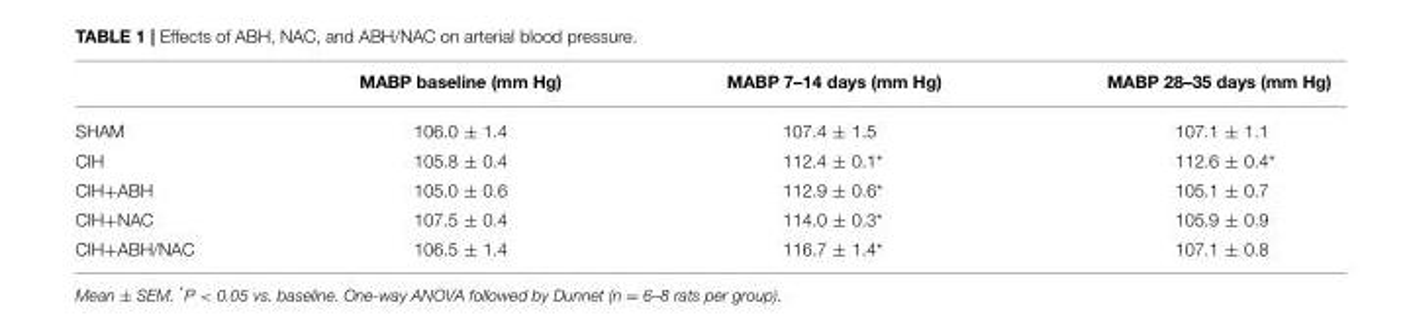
<table><thead><tr><td></td><td>MABP baseline (mm Hg)</td><td>MABP 7–14 days (mm Hg)</td><td>MABP 28–35 days (mm Hg)</td></tr></thead><tbody><tr><td>SHAM</td><td>106.0 ± 1.4</td><td>107.4 ± 1.5</td><td>107.1 ± 1.1</td></tr><tr><td>CIH</td><td>105.8 ± 0.4</td><td>112.4 ± 0.1*</td><td>112.6 ± 0.4*</td></tr><tr><td>CIH+ABH</td><td>105.0 ± 0.6</td><td>112.9 ± 0.6*</td><td>105.1 ± 0.7</td></tr><tr><td>CIH+NAC</td><td>107.5 ± 0.4</td><td>114.0 ± 0.3*</td><td>105.9 ± 0.9</td></tr><tr><td>CIH+ABH/NAC</td><td>106.5 ± 1.4</td><td>116.7 ± 1.4*</td><td>107.1 ± 0.8</td></tr></tbody></table>